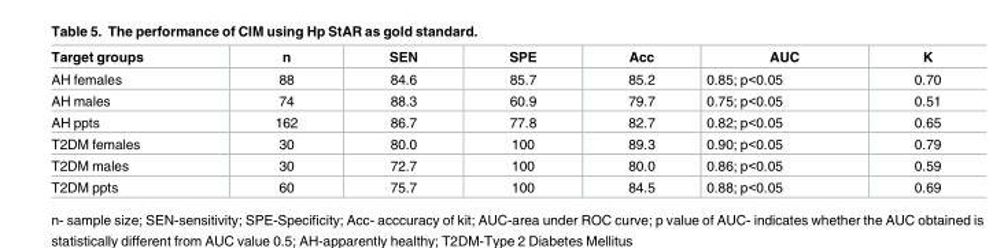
<table><thead><tr><td>Target groups</td><td>n</td><td>SEN</td><td>SPE</td><td>Acc</td><td>AUC</td><td>K</td></tr></thead><tbody><tr><td>AH females</td><td>88</td><td>84.6</td><td>85.7</td><td>85.2</td><td>0.85; p&lt;0.05</td><td>0.70</td></tr><tr><td>AH males</td><td>74</td><td>88.3</td><td>60.9</td><td>79.7</td><td>0.75; p&lt;0.05</td><td>0.51</td></tr><tr><td>AH ppts</td><td>162</td><td>86.7</td><td>77.8</td><td>82.7</td><td>0.82; p&lt;0.05</td><td>0.65</td></tr><tr><td>T2DM females</td><td>30</td><td>80.0</td><td>100</td><td>89.3</td><td>0.90; p&lt;0.05</td><td>0.79</td></tr><tr><td>T2DM males</td><td>30</td><td>72.7</td><td>100</td><td>80.0</td><td>0.86; p&lt;0.05</td><td>0.59</td></tr><tr><td>T2DM ppts</td><td>60</td><td>75.7</td><td>100</td><td>84.5</td><td>0.88; p&lt;0.05</td><td>0.69</td></tr></tbody></table>